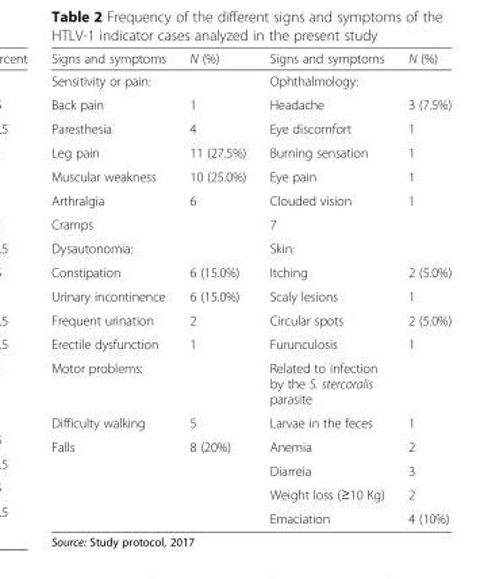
<table><thead><tr><td>Signs and symptoms</td><td>N (%)</td><td>Signs and symptoms</td><td>N (%)</td></tr></thead><tbody><tr><td colspan="2">Sensitivity or pain:</td><td colspan="2">Ophthalmology:</td></tr><tr><td>Back pain</td><td>1</td><td>Headache</td><td>3 (7.5%)</td></tr><tr><td>Paresthesia</td><td>4</td><td>Eye discomfort</td><td>1</td></tr><tr><td>Leg pain</td><td>11 (27.5%)</td><td>Burning sensation</td><td>1</td></tr><tr><td>Muscular weakness</td><td>10 (25.0%)</td><td>Eye pain</td><td>1</td></tr><tr><td>Arthralgia</td><td>6</td><td>Clouded vision</td><td>1</td></tr><tr><td colspan="2">Cramps</td><td colspan="2">7</td></tr><tr><td colspan="2">Dysautonomia:</td><td colspan="2">Skin:</td></tr><tr><td>Constipation</td><td>6 (15.0%)</td><td>Itching</td><td>2 (5.0%)</td></tr><tr><td>Urinary incontinence</td><td>6 (15.0%)</td><td>Scaly lesions</td><td>1</td></tr><tr><td>Frequent urination</td><td>2</td><td>Circular spots</td><td>2 (5.0%)</td></tr><tr><td>Erectile dysfunction</td><td>1</td><td>Furunculosis</td><td>1</td></tr><tr><td colspan="2">Motor problems:</td><td colspan="2">Related to infection by the S. stercoralis parasite</td></tr><tr><td>Difficulty walking</td><td>5</td><td>Larvae in the feces</td><td>1</td></tr><tr><td rowspan="2">Falls</td><td rowspan="2">8 (20%)</td><td>Anemia</td><td>2</td></tr><tr><td>Diarreia</td><td>3</td></tr><tr><td rowspan="2" colspan="2"></td><td>Weight loss (≥10 Kg)</td><td>2</td></tr><tr><td>Emaciation</td><td>4 (10%)</td></tr></tbody></table>